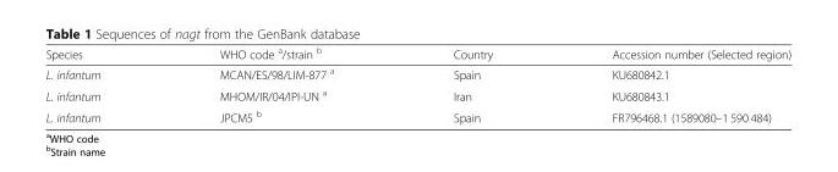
<table><thead><tr><td>Species</td><td>WHO code <sup>a</sup>/strain <sup>b</sup></td><td>Country</td><td>Accession number (Selected region)</td></tr></thead><tbody><tr><td>L. infantum</td><td>MCAN/ES/98/LIM-877 <sup>a</sup></td><td>Spain</td><td>KU680842.1</td></tr><tr><td>L. infantum</td><td>MHOM/IR/04/IPI-UN <sup>a</sup></td><td>Iran</td><td>KU680843.1</td></tr><tr><td>L. infantum</td><td>JPCM5 <sup>b</sup></td><td>Spain</td><td>FR796468.1 (1589080–1 590 484)</td></tr></tbody></table>